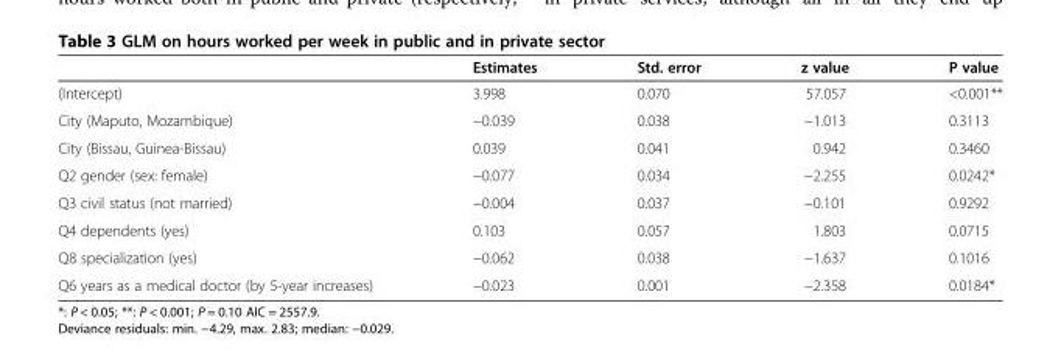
<table><thead><tr><td></td><td>Estimates</td><td>Std. error</td><td>z value</td><td>P value</td></tr></thead><tbody><tr><td>(Intercept)</td><td>3.998</td><td>0.070</td><td>57.057</td><td>&lt;0.001**</td></tr><tr><td>City (Maputo, Mozambique)</td><td>−0.039</td><td>0.038</td><td>−1.013</td><td>0.3113</td></tr><tr><td>City (Bissau, Guinea-Bissau)</td><td>0.039</td><td>0.041</td><td>0.942</td><td>0.3460</td></tr><tr><td>Q2 gender (sex: female)</td><td>−0.077</td><td>0.034</td><td>−2.255</td><td>0.0242*</td></tr><tr><td>Q3 civil status (not married)</td><td>−0.004</td><td>0.037</td><td>−0.101</td><td>0.9292</td></tr><tr><td>Q4 dependents (yes)</td><td>0.103</td><td>0.057</td><td>1.803</td><td>0.0715</td></tr><tr><td>Q8 specialization (yes)</td><td>−0.062</td><td>0.038</td><td>−1.637</td><td>0.1016</td></tr><tr><td>Q6 years as a medical doctor (by 5-year increases)</td><td>−0.023</td><td>0.001</td><td>−2.358</td><td>0.0184*</td></tr></tbody></table>